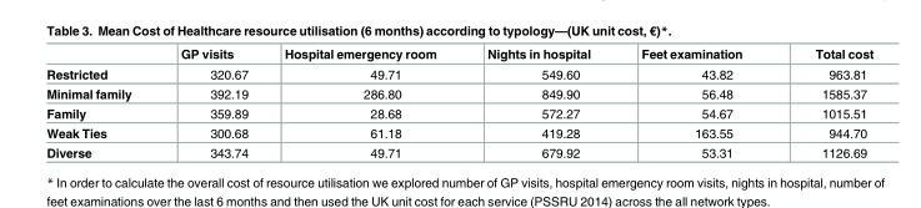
<table><thead><tr><td></td><td>GP visits</td><td>Hospital emergency room</td><td>Nights in hospital</td><td>Feet examination</td><td>Total cost</td></tr></thead><tbody><tr><td>Restricted</td><td>320.67</td><td>49.71</td><td>549.60</td><td>43.82</td><td>963.81</td></tr><tr><td>Minimal family</td><td>392.19</td><td>286.80</td><td>849.90</td><td>56.48</td><td>1585.37</td></tr><tr><td>Family</td><td>359.89</td><td>28.68</td><td>572.27</td><td>54.67</td><td>1015.51</td></tr><tr><td>Weak Ties</td><td>300.68</td><td>61.18</td><td>419.28</td><td>163.55</td><td>944.70</td></tr><tr><td>Diverse</td><td>343.74</td><td>49.71</td><td>679.92</td><td>53.31</td><td>1126.69</td></tr></tbody></table>